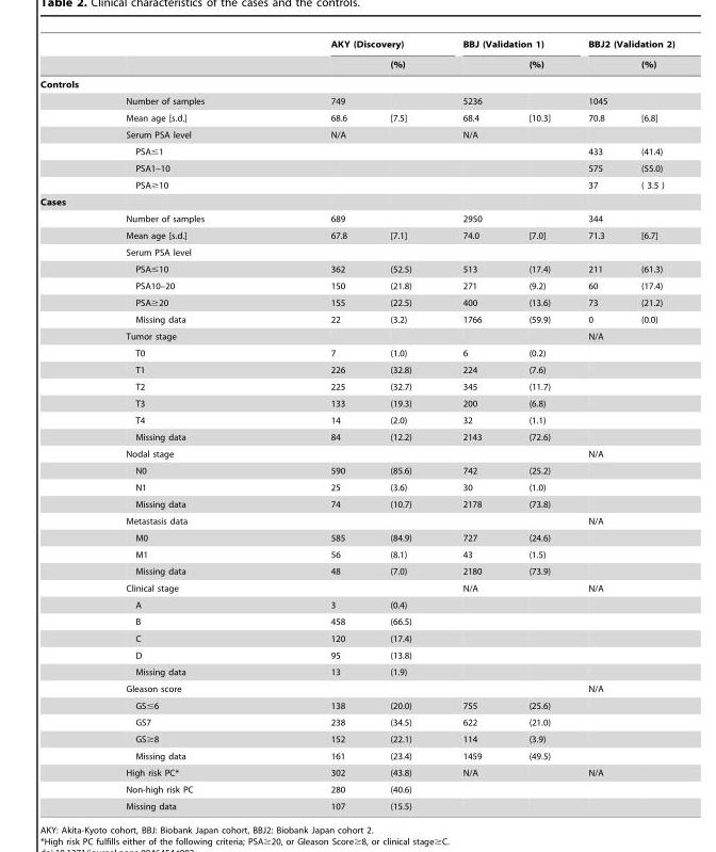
<table><thead><tr><td rowspan="2"></td><td rowspan="2"></td><td colspan="2">AKY (Discovery)</td><td colspan="2">BBJ (Validation 1)</td><td colspan="2">BBJ2 (Validation 2)</td></tr><tr><td></td><td>(%)</td><td></td><td>(%)</td><td></td><td>(%)</td></tr></thead><tbody><tr><td colspan="8">Controls</td></tr><tr><td></td><td>Number of samples</td><td>749</td><td></td><td>5236</td><td></td><td>1045</td><td></td></tr><tr><td></td><td>Mean age [s.d.]</td><td>68.6</td><td>[7.5]</td><td>68.4</td><td>[10.3]</td><td>70.8</td><td>[6.8]</td></tr><tr><td></td><td>Serum PSA level</td><td>N/A</td><td></td><td>N/A</td><td></td><td></td><td></td></tr><tr><td></td><td>PSA≤1</td><td></td><td></td><td></td><td></td><td>433</td><td>(41.4)</td></tr><tr><td></td><td>PSA1–10</td><td></td><td></td><td></td><td></td><td>575</td><td>(55.0)</td></tr><tr><td></td><td>PSA≥10</td><td></td><td></td><td></td><td></td><td>37</td><td>( 3.5 )</td></tr><tr><td colspan="8">Cases</td></tr><tr><td></td><td>Number of samples</td><td>689</td><td></td><td>2950</td><td></td><td>344</td><td></td></tr><tr><td></td><td>Mean age [s.d.]</td><td>67.8</td><td>[7.1]</td><td>74.0</td><td>[7.0]</td><td>71.3</td><td>[6.7]</td></tr><tr><td></td><td>Serum PSA level</td><td></td><td></td><td></td><td></td><td></td><td></td></tr><tr><td></td><td>PSA≤10</td><td>362</td><td>(52.5)</td><td>513</td><td>(17.4)</td><td>211</td><td>(61.3)</td></tr><tr><td></td><td>PSA10–20</td><td>150</td><td>(21.8)</td><td>271</td><td>(9.2)</td><td>60</td><td>(17.4)</td></tr><tr><td></td><td>PSA≥20</td><td>155</td><td>(22.5)</td><td>400</td><td>(13.6)</td><td>73</td><td>(21.2)</td></tr><tr><td></td><td>Missing data</td><td>22</td><td>(3.2)</td><td>1766</td><td>(59.9)</td><td>0</td><td>(0.0)</td></tr><tr><td></td><td>Tumor stage</td><td></td><td></td><td></td><td></td><td>N/A</td><td></td></tr><tr><td></td><td>T0</td><td>7</td><td>(1.0)</td><td>6</td><td>(0.2)</td><td></td><td></td></tr><tr><td></td><td>T1</td><td>226</td><td>(32.8)</td><td>224</td><td>(7.6)</td><td></td><td></td></tr><tr><td></td><td>T2</td><td>225</td><td>(32.7)</td><td>345</td><td>(11.7)</td><td></td><td></td></tr><tr><td></td><td>T3</td><td>133</td><td>(19.3)</td><td>200</td><td>(6.8)</td><td></td><td></td></tr><tr><td></td><td>T4</td><td>14</td><td>(2.0)</td><td>32</td><td>(1.1)</td><td></td><td></td></tr><tr><td></td><td>Missing data</td><td>84</td><td>(12.2)</td><td>2143</td><td>(72.6)</td><td></td><td></td></tr><tr><td></td><td>Nodal stage</td><td></td><td></td><td></td><td></td><td>N/A</td><td></td></tr><tr><td></td><td>N0</td><td>590</td><td>(85.6)</td><td>742</td><td>(25.2)</td><td></td><td></td></tr><tr><td></td><td>N1</td><td>25</td><td>(3.6)</td><td>30</td><td>(1.0)</td><td></td><td></td></tr><tr><td></td><td>Missing data</td><td>74</td><td>(10.7)</td><td>2178</td><td>(73.8)</td><td></td><td></td></tr><tr><td></td><td>Metastasis data</td><td></td><td></td><td></td><td></td><td>N/A</td><td></td></tr><tr><td></td><td>M0</td><td>585</td><td>(84.9)</td><td>727</td><td>(24.6)</td><td></td><td></td></tr><tr><td></td><td>M1</td><td>56</td><td>(8.1)</td><td>43</td><td>(1.5)</td><td></td><td></td></tr><tr><td></td><td>Missing data</td><td>48</td><td>(7.0)</td><td>2180</td><td>(73.9)</td><td></td><td></td></tr><tr><td></td><td>Clinical stage</td><td></td><td></td><td>N/A</td><td></td><td>N/A</td><td></td></tr><tr><td></td><td>A</td><td>3</td><td>(0.4)</td><td></td><td></td><td></td><td></td></tr><tr><td></td><td>B</td><td>458</td><td>(66.5)</td><td></td><td></td><td></td><td></td></tr><tr><td></td><td>C</td><td>120</td><td>(17.4)</td><td></td><td></td><td></td><td></td></tr><tr><td></td><td>D</td><td>95</td><td>(13.8)</td><td></td><td></td><td></td><td></td></tr><tr><td></td><td>Missing data</td><td>13</td><td>(1.9)</td><td></td><td></td><td></td><td></td></tr><tr><td></td><td>Gleason score</td><td></td><td></td><td></td><td></td><td>N/A</td><td></td></tr><tr><td></td><td>GS≤6</td><td>138</td><td>(20.0)</td><td>755</td><td>(25.6)</td><td></td><td></td></tr><tr><td></td><td>GS7</td><td>238</td><td>(34.5)</td><td>622</td><td>(21.0)</td><td></td><td></td></tr><tr><td></td><td>GS≥8</td><td>152</td><td>(22.1)</td><td>114</td><td>(3.9)</td><td></td><td></td></tr><tr><td></td><td>Missing data</td><td>161</td><td>(23.4)</td><td>1459</td><td>(49.5)</td><td></td><td></td></tr><tr><td></td><td>High risk PC*</td><td>302</td><td>(43.8)</td><td>N/A</td><td></td><td>N/A</td><td></td></tr><tr><td></td><td>Non-high risk PC</td><td>280</td><td>(40.6)</td><td></td><td></td><td></td><td></td></tr><tr><td></td><td>Missing data</td><td>107</td><td>(15.5)</td><td></td><td></td><td></td><td></td></tr></tbody></table>